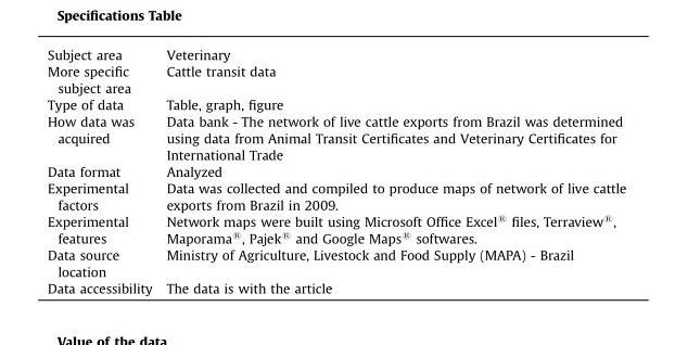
<table><thead><tr><td>Subject area</td><td>Veterinary</td></tr></thead><tbody><tr><td>More specific subject area</td><td>Cattle transit data</td></tr><tr><td>Type of data</td><td>Table, graph, figure</td></tr><tr><td>How data was acquired</td><td>Data bank - The network of live cattle exports from Brazil was determined using data from Animal Transit Certificates and Veterinary Certificates for International Trade</td></tr><tr><td>Data format</td><td>Analyzed</td></tr><tr><td>Experimental factors</td><td>Data was collected and compiled to produce maps of network of live cattle exports from Brazil in 2009.</td></tr><tr><td>Experimental features</td><td>Network maps were built using Microsoft Office Excel® files, Terraview®, Maporama®, Pajek® and Google Maps® softwares.</td></tr><tr><td>Data source location</td><td>Ministry of Agriculture, Livestock and Food Supply (MAPA) - Brazil</td></tr><tr><td>Data accessibility</td><td>The data is with the article</td></tr></tbody></table>